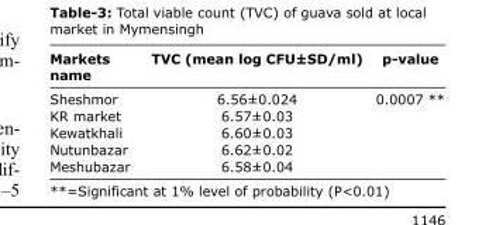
<table><thead><tr><td>Markets name</td><td>TVC (mean log CFU±SD/ml)</td><td>p-value</td></tr></thead><tbody><tr><td>Sheshmor</td><td>6.56±0.024</td><td>0.0007 **</td></tr><tr><td>KR market</td><td>6.57±0.03</td><td></td></tr><tr><td>Kewatkhali</td><td>6.60±0.03</td><td></td></tr><tr><td>Nutunbazar</td><td>6.62±0.02</td><td></td></tr><tr><td>Meshubazar</td><td>6.58±0.04</td><td></td></tr></tbody></table>